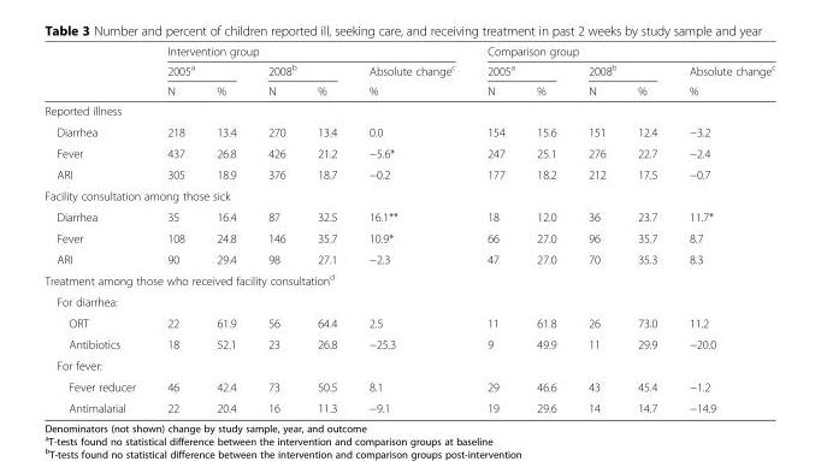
<table><thead><tr><td rowspan="3"></td><td colspan="5">Intervention group</td><td colspan="5">Comparison group</td></tr><tr><td colspan="2">2005<sup>a</sup></td><td colspan="2">2008<sup>b</sup></td><td rowspan="2">Absolute change<sup>c</sup> %</td><td colspan="2">2005<sup>a</sup></td><td colspan="2">2008<sup>b</sup></td><td rowspan="2">Absolute change<sup>c</sup> %</td></tr><tr><td>N</td><td>%</td><td>N</td><td>%</td><td>N</td><td>%</td><td>N</td><td>%</td></tr></thead><tbody><tr><td colspan="11">Reported illness</td></tr><tr><td>Diarrhea</td><td>218</td><td>13.4</td><td>270</td><td>13.4</td><td>0.0</td><td>154</td><td>15.6</td><td>151</td><td>12.4</td><td>−3.2</td></tr><tr><td>Fever</td><td>437</td><td>26.8</td><td>426</td><td>21.2</td><td>−5.6*</td><td>247</td><td>25.1</td><td>276</td><td>22.7</td><td>−2.4</td></tr><tr><td>ARI</td><td>305</td><td>18.9</td><td>376</td><td>18.7</td><td>−0.2</td><td>177</td><td>18.2</td><td>212</td><td>17.5</td><td>−0.7</td></tr><tr><td colspan="11">Facility consultation among those sick</td></tr><tr><td>Diarrhea</td><td>35</td><td>16.4</td><td>87</td><td>32.5</td><td>16.1**</td><td>18</td><td>12.0</td><td>36</td><td>23.7</td><td>11.7*</td></tr><tr><td>Fever</td><td>108</td><td>24.8</td><td>146</td><td>35.7</td><td>10.9*</td><td>66</td><td>27.0</td><td>96</td><td>35.7</td><td>8.7</td></tr><tr><td>ARI</td><td>90</td><td>29.4</td><td>98</td><td>27.1</td><td>−2.3</td><td>47</td><td>27.0</td><td>70</td><td>35.3</td><td>8.3</td></tr><tr><td colspan="11">Treatment among those who received facility consultation<sup>d</sup></td></tr><tr><td colspan="11">For diarrhea:</td></tr><tr><td>ORT</td><td>22</td><td>61.9</td><td>56</td><td>64.4</td><td>2.5</td><td>11</td><td>61.8</td><td>26</td><td>73.0</td><td>11.2</td></tr><tr><td>Antibiotics</td><td>18</td><td>52.1</td><td>23</td><td>26.8</td><td>−25.3</td><td>9</td><td>49.9</td><td>11</td><td>29.9</td><td>−20.0</td></tr><tr><td colspan="11">For fever:</td></tr><tr><td>Fever reducer</td><td>46</td><td>42.4</td><td>73</td><td>50.5</td><td>8.1</td><td>29</td><td>46.6</td><td>43</td><td>45.4</td><td>−1.2</td></tr><tr><td>Antimalarial</td><td>22</td><td>20.4</td><td>16</td><td>11.3</td><td>−9.1</td><td>19</td><td>29.6</td><td>14</td><td>14.7</td><td>−14.9</td></tr></tbody></table>